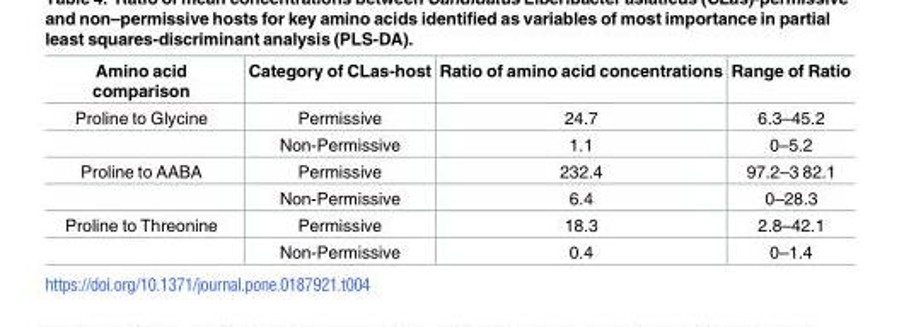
<table><thead><tr><td>Amino acid comparison</td><td>Category of CLas-host</td><td>Ratio of amino acid concentrations</td><td>Range of Ratio</td></tr></thead><tbody><tr><td rowspan="2">Proline to Glycine</td><td>Permissive</td><td>24.7</td><td>6.3–45.2</td></tr><tr><td>Non-Permissive</td><td>1.1</td><td>0–5.2</td></tr><tr><td rowspan="2">Proline to AABA</td><td>Permissive</td><td>232.4</td><td>97.2–3 82.1</td></tr><tr><td>Non-Permissive</td><td>6.4</td><td>0–28.3</td></tr><tr><td rowspan="2">Proline to Threonine</td><td>Permissive</td><td>18.3</td><td>2.8–42.1</td></tr><tr><td>Non-Permissive</td><td>0.4</td><td>0–1.4</td></tr></tbody></table>